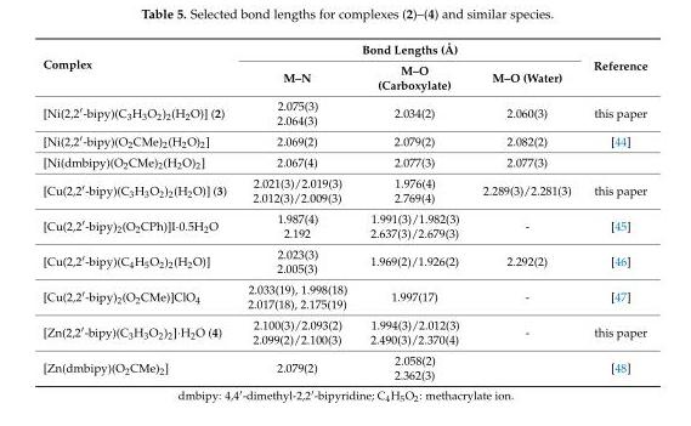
<table><thead><tr><td rowspan="2">Complex</td><td colspan="3">Bond Lengths (Å)</td><td rowspan="2">Reference</td></tr><tr><td>M–N</td><td>M–O (Carboxylate)</td><td>M–O (Water)</td></tr></thead><tbody><tr><td>[Ni(2,2′-bipy)(C<sub>3</sub>H<sub>3</sub>O<sub>2</sub>)<sub>2</sub>(H<sub>2</sub>O)] (2)</td><td>2.075(3) 2.064(3)</td><td>2.034(2)</td><td>2.060(3)</td><td>this paper</td></tr><tr><td>[Ni(2,2′-bipy)(O<sub>2</sub>CMe)<sub>2</sub>(H<sub>2</sub>O)<sub>2</sub>]</td><td>2.069(2)</td><td>2.079(2)</td><td>2.082(2)</td><td>[44]</td></tr><tr><td>[Ni(dmbipy)(O<sub>2</sub>CMe)<sub>2</sub>(H<sub>2</sub>O)<sub>2</sub>]</td><td>2.067(4)</td><td>2.077(3)</td><td>2.077(3)</td><td></td></tr><tr><td>[Cu(2,2′-bipy)(C<sub>3</sub>H<sub>3</sub>O<sub>2</sub>)<sub>2</sub>(H<sub>2</sub>O)] (3)</td><td>2.021(3)/2.019(3) 2.012(3)/2.009(3)</td><td>1.976(4) 2.769(4)</td><td>2.289(3)/2.281(3)</td><td>this paper</td></tr><tr><td>[Cu(2,2′-bipy)<sub>2</sub>(O<sub>2</sub>CPh)]I·0.5H<sub>2</sub>O</td><td>1.987(4) 2.192</td><td>1.991(3)/1.982(3) 2.637(3)/2.679(3)</td><td>-</td><td>[45]</td></tr><tr><td>[Cu(2,2′-bipy)(C<sub>4</sub>H<sub>5</sub>O<sub>2</sub>)<sub>2</sub>(H<sub>2</sub>O)]</td><td>2.023(3) 2.005(3)</td><td>1.969(2)/1.926(2)</td><td>2.292(2)</td><td>[46]</td></tr><tr><td>[Cu(2,2′-bipy)<sub>2</sub>(O<sub>2</sub>CMe)]ClO<sub>4</sub></td><td>2.033(19), 1.998(18) 2.017(18), 2.175(19)</td><td>1.997(17)</td><td>-</td><td>[47]</td></tr><tr><td>[Zn(2,2′-bipy)(C<sub>3</sub>H<sub>3</sub>O<sub>2</sub>)<sub>2</sub>]·H<sub>2</sub>O (4)</td><td>2.100(3)/2.093(2) 2.099(2)/2.100(3)</td><td>1.994(3)/2.012(3) 2.490(3)/2.370(4)</td><td>-</td><td>this paper</td></tr><tr><td>[Zn(dmbipy)(O<sub>2</sub>CMe)<sub>2</sub>]</td><td>2.079(2)</td><td>2.058(2) 2.362(3)</td><td></td><td>[48]</td></tr></tbody></table>